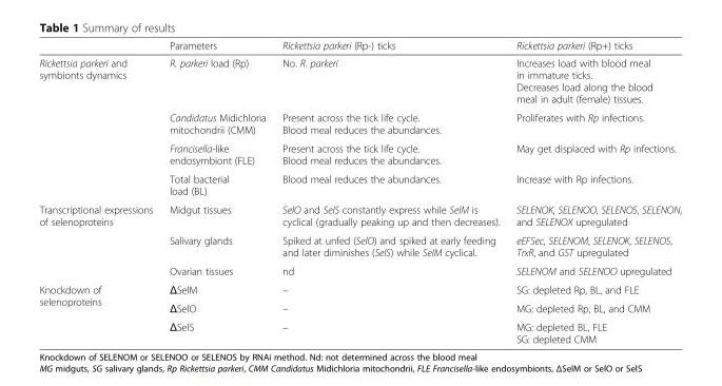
<table><thead><tr><td></td><td>Parameters</td><td>Rickettsia parkeri (Rp-) ticks</td><td>Rickettsia parkeri (Rp+) ticks</td></tr></thead><tbody><tr><td rowspan="4">Rickettsia parkeri and symbionts dynamics</td><td>R. parkeri load (Rp)</td><td>No. R. parkeri</td><td>Increases load with blood meal in immature ticks. Decreases load along the blood meal in adult (female) tissues.</td></tr><tr><td>Candidatus Midichloria mitochondrii (CMM)</td><td>Present across the tick life cycle. Blood meal reduces the abundances.</td><td>Proliferates with Rp infections.</td></tr><tr><td>Francisella-like endosymbiont (FLE)</td><td>Present across the tick life cycle. Blood meal reduces the abundances.</td><td>May get displaced with Rp infections.</td></tr><tr><td>Total bacterial load (BL)</td><td>Blood meal reduces the abundances.</td><td>Increase with Rp infections.</td></tr><tr><td rowspan="3">Transcriptional expressions of selenoproteins</td><td>Midgut tissues</td><td>SelO and SelS constantly express while SelM is cyclical (gradually peaking up and then decreases).</td><td>SELENOK, SELENOO, SELENOS, SELENON, and SELENOX upregulated</td></tr><tr><td>Salivary glands</td><td>Spiked at unfed (SelO) and spiked at early feeding and later diminishes (SelS) while SelM cyclical.</td><td>eEFSec, SELENOM, SELENOK, SELENOS, TrxR, and GST upregulated</td></tr><tr><td>Ovarian tissues</td><td>nd</td><td>SELENOM and SELENOO upregulated</td></tr><tr><td rowspan="3">Knockdown of selenoproteins</td><td>ΔSelM</td><td>–</td><td>SG: depleted Rp, BL, and FLE</td></tr><tr><td>ΔSelO</td><td>–</td><td>MG: depleted Rp, BL, and CMM</td></tr><tr><td>ΔSelS</td><td>–</td><td>MG: depleted BL, FLE SG: depleted CMM</td></tr></tbody></table>